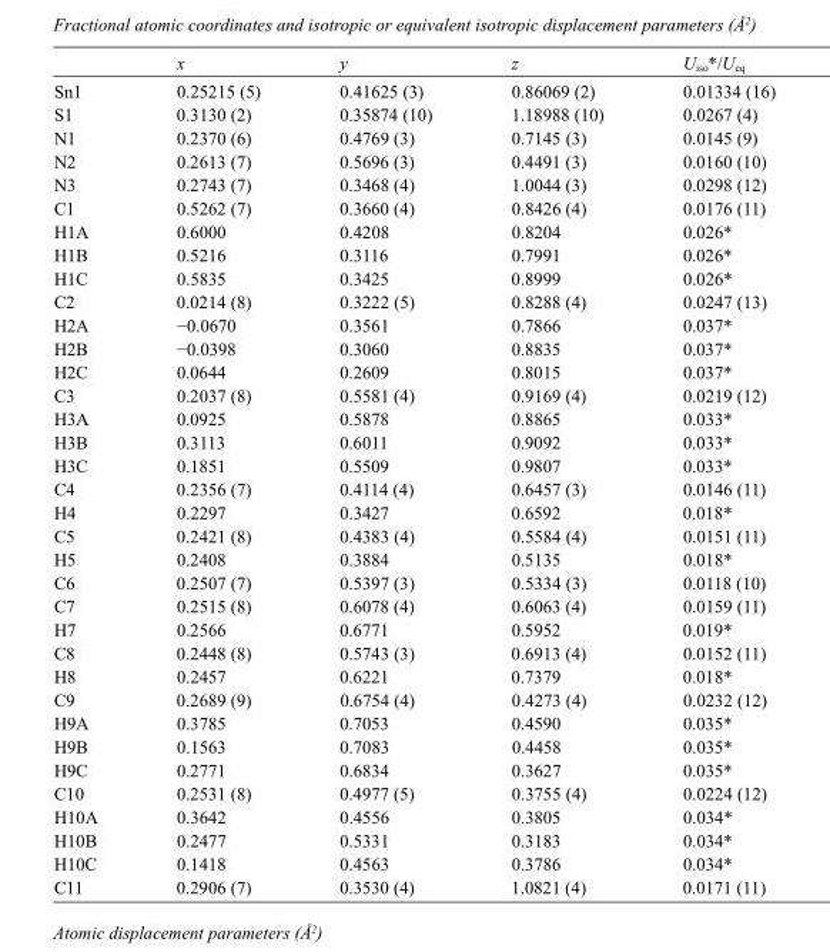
<table><thead><tr><td></td><td>x</td><td>y</td><td>z</td><td>U<sub>iso</sub>*/U<sub>eq</sub></td></tr></thead><tbody><tr><td>Sn1</td><td>0.25215 (5)</td><td>0.41625 (3)</td><td>0.86069 (2)</td><td>0.01334 (16)</td></tr><tr><td>S1</td><td>0.3130 (2)</td><td>0.35874 (10)</td><td>1.18988 (10)</td><td>0.0267 (4)</td></tr><tr><td>N1</td><td>0.2370 (6)</td><td>0.4769 (3)</td><td>0.7145 (3)</td><td>0.0145 (9)</td></tr><tr><td>N2</td><td>0.2613 (7)</td><td>0.5696 (3)</td><td>0.4491 (3)</td><td>0.0160 (10)</td></tr><tr><td>N3</td><td>0.2743 (7)</td><td>0.3468 (4)</td><td>1.0044 (3)</td><td>0.0298 (12)</td></tr><tr><td>C1</td><td>0.5262 (7)</td><td>0.3660 (4)</td><td>0.8426 (4)</td><td>0.0176 (11)</td></tr><tr><td>H1A</td><td>0.6000</td><td>0.4208</td><td>0.8204</td><td>0.026*</td></tr><tr><td>H1B</td><td>0.5216</td><td>0.3116</td><td>0.7991</td><td>0.026*</td></tr><tr><td>H1C</td><td>0.5835</td><td>0.3425</td><td>0.8999</td><td>0.026*</td></tr><tr><td>C2</td><td>0.0214 (8)</td><td>0.3222 (5)</td><td>0.8288 (4)</td><td>0.0247 (13)</td></tr><tr><td>H2A</td><td>−0.0670</td><td>0.3561</td><td>0.7866</td><td>0.037*</td></tr><tr><td>H2B</td><td>−0.0398</td><td>0.3060</td><td>0.8835</td><td>0.037*</td></tr><tr><td>H2C</td><td>0.0644</td><td>0.2609</td><td>0.8015</td><td>0.037*</td></tr><tr><td>C3</td><td>0.2037 (8)</td><td>0.5581 (4)</td><td>0.9169 (4)</td><td>0.0219 (12)</td></tr><tr><td>H3A</td><td>0.0925</td><td>0.5878</td><td>0.8865</td><td>0.033*</td></tr><tr><td>H3B</td><td>0.3113</td><td>0.6011</td><td>0.9092</td><td>0.033*</td></tr><tr><td>H3C</td><td>0.1851</td><td>0.5509</td><td>0.9807</td><td>0.033*</td></tr><tr><td>C4</td><td>0.2356 (7)</td><td>0.4114 (4)</td><td>0.6457 (3)</td><td>0.0146 (11)</td></tr><tr><td>H4</td><td>0.2297</td><td>0.3427</td><td>0.6592</td><td>0.018*</td></tr><tr><td>C5</td><td>0.2421 (8)</td><td>0.4383 (4)</td><td>0.5584 (4)</td><td>0.0151 (11)</td></tr><tr><td>H5</td><td>0.2408</td><td>0.3884</td><td>0.5135</td><td>0.018*</td></tr><tr><td>C6</td><td>0.2507 (7)</td><td>0.5397 (3)</td><td>0.5334 (3)</td><td>0.0118 (10)</td></tr><tr><td>C7</td><td>0.2515 (8)</td><td>0.6078 (4)</td><td>0.6063 (4)</td><td>0.0159 (11)</td></tr><tr><td>H7</td><td>0.2566</td><td>0.6771</td><td>0.5952</td><td>0.019*</td></tr><tr><td>C8</td><td>0.2448 (8)</td><td>0.5743 (3)</td><td>0.6913 (4)</td><td>0.0152 (11)</td></tr><tr><td>H8</td><td>0.2457</td><td>0.6221</td><td>0.7379</td><td>0.018*</td></tr><tr><td>C9</td><td>0.2689 (9)</td><td>0.6754 (4)</td><td>0.4273 (4)</td><td>0.0232 (12)</td></tr><tr><td>H9A</td><td>0.3785</td><td>0.7053</td><td>0.4590</td><td>0.035*</td></tr><tr><td>H9B</td><td>0.1563</td><td>0.7083</td><td>0.4458</td><td>0.035*</td></tr><tr><td>H9C</td><td>0.2771</td><td>0.6834</td><td>0.3627</td><td>0.035*</td></tr><tr><td>C10</td><td>0.2531 (8)</td><td>0.4977 (5)</td><td>0.3755 (4)</td><td>0.0224 (12)</td></tr><tr><td>H10A</td><td>0.3642</td><td>0.4556</td><td>0.3805</td><td>0.034*</td></tr><tr><td>H10B</td><td>0.2477</td><td>0.5331</td><td>0.3183</td><td>0.034*</td></tr><tr><td>H10C</td><td>0.1418</td><td>0.4563</td><td>0.3786</td><td>0.034*</td></tr><tr><td>C11</td><td>0.2906 (7)</td><td>0.3530 (4)</td><td>1.0821 (4)</td><td>0.0171 (11)</td></tr></tbody></table>